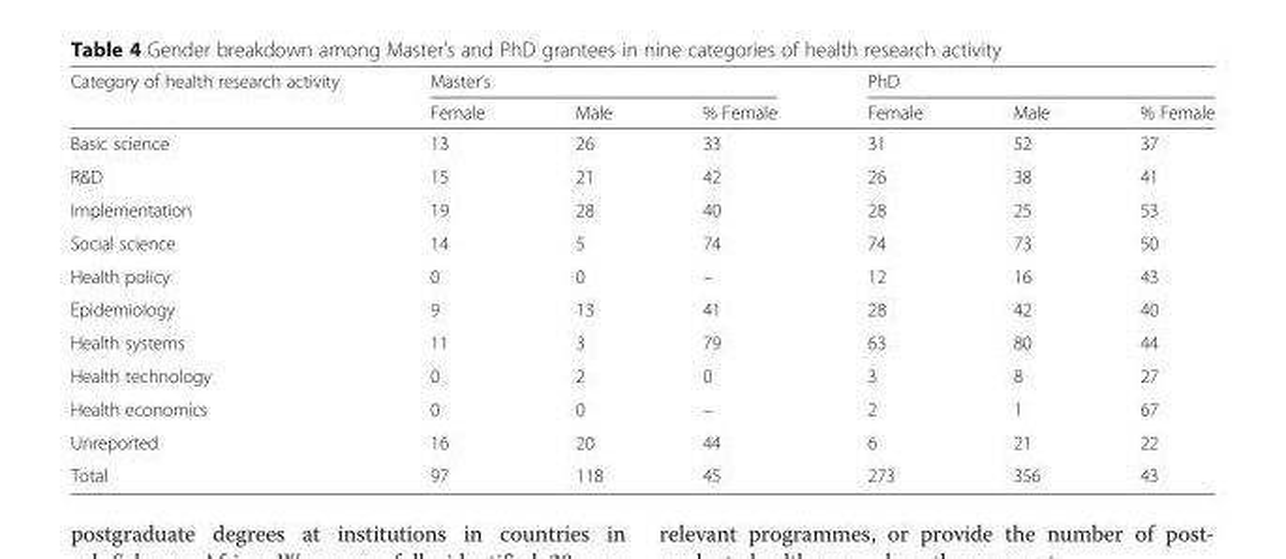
<table><thead><tr><td rowspan="2">Category of health research activity</td><td colspan="3">Master’s</td><td colspan="3">PhD</td></tr><tr><td>Female</td><td>Male</td><td>% Female</td><td>Female</td><td>Male</td><td>% Female</td></tr></thead><tbody><tr><td>Basic science</td><td>13</td><td>26</td><td>33</td><td>31</td><td>52</td><td>37</td></tr><tr><td>R&amp;D</td><td>15</td><td>21</td><td>42</td><td>26</td><td>38</td><td>41</td></tr><tr><td>Implementation</td><td>19</td><td>28</td><td>40</td><td>28</td><td>25</td><td>53</td></tr><tr><td>Social science</td><td>14</td><td>5</td><td>74</td><td>74</td><td>73</td><td>50</td></tr><tr><td>Health policy</td><td>0</td><td>0</td><td>–</td><td>12</td><td>16</td><td>43</td></tr><tr><td>Epidemiology</td><td>9</td><td>13</td><td>41</td><td>28</td><td>42</td><td>40</td></tr><tr><td>Health systems</td><td>11</td><td>3</td><td>79</td><td>63</td><td>80</td><td>44</td></tr><tr><td>Health technology</td><td>0</td><td>2</td><td>0</td><td>3</td><td>8</td><td>27</td></tr><tr><td>Health economics</td><td>0</td><td>0</td><td>–</td><td>2</td><td>1</td><td>67</td></tr><tr><td>Unreported</td><td>16</td><td>20</td><td>44</td><td>6</td><td>21</td><td>22</td></tr><tr><td>Total</td><td>97</td><td>118</td><td>45</td><td>273</td><td>356</td><td>43</td></tr></tbody></table>